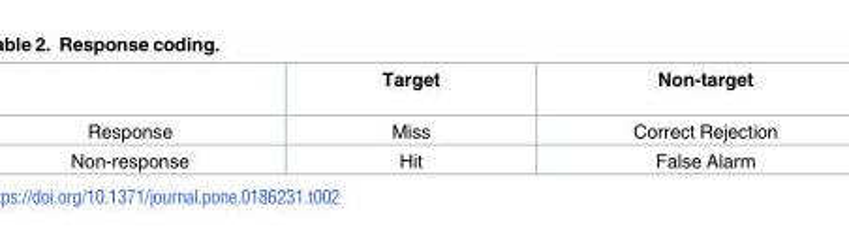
<table><thead><tr><td></td><td>Target</td><td>Non-target</td></tr></thead><tbody><tr><td>Response</td><td>Miss</td><td>Correct Rejection</td></tr><tr><td>Non-response</td><td>Hit</td><td>False Alarm</td></tr></tbody></table>